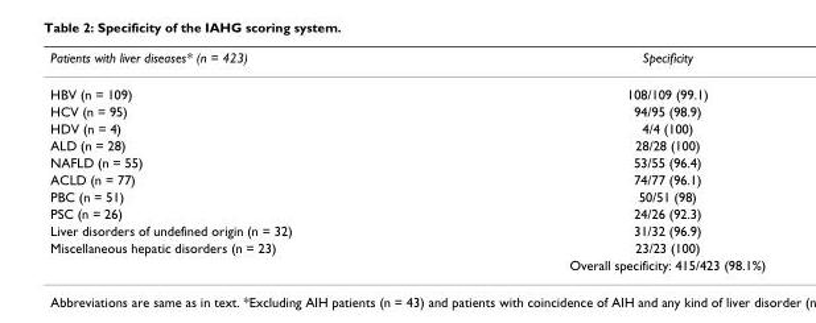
<table><thead><tr><td>Patients with liver diseases* (n = 423)</td><td>Specificity</td></tr></thead><tbody><tr><td>HBV (n = 109)</td><td>108/109 (99.1)</td></tr><tr><td>HCV (n = 95)</td><td>94/95 (98.9)</td></tr><tr><td>HDV (n = 4)</td><td>4/4 (100)</td></tr><tr><td>ALD (n = 28)</td><td>28/28 (100)</td></tr><tr><td>NAFLD (n = 55)</td><td>53/55 (96.4)</td></tr><tr><td>ACLD (n = 77)</td><td>74/77 (96.1)</td></tr><tr><td>PBC (n = 51)</td><td>50/51 (98)</td></tr><tr><td>PSC (n = 26)</td><td>24/26 (92.3)</td></tr><tr><td>Liver disorders of undefined origin (n = 32)</td><td>31/32 (96.9)</td></tr><tr><td rowspan="2">Miscellaneous hepatic disorders (n = 23)</td><td>23/23 (100)</td></tr><tr><td>Overall specificity: 415/423 (98.1%)</td></tr></tbody></table>